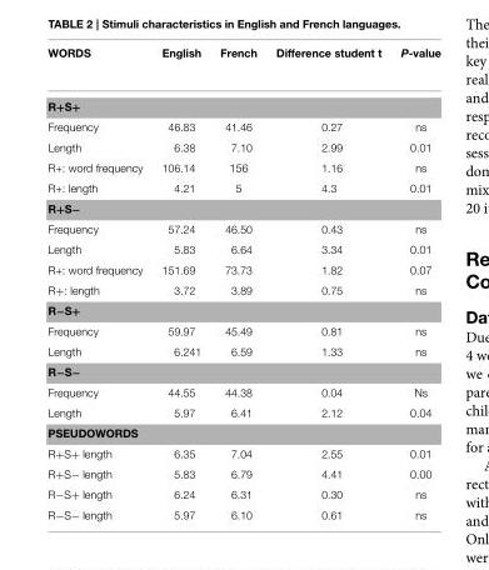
<table><thead><tr><td>WORDS</td><td>English</td><td>French</td><td>Difference student t</td><td>P-value</td></tr></thead><tbody><tr><td colspan="5">R+S+</td></tr><tr><td>Frequency</td><td>46.83</td><td>41.46</td><td>0.27</td><td>ns</td></tr><tr><td>Length</td><td>6.38</td><td>7.10</td><td>2.99</td><td>0.01</td></tr><tr><td>R+: word frequency</td><td>106.14</td><td>156</td><td>1.16</td><td>ns</td></tr><tr><td>R+: length</td><td>4.21</td><td>5</td><td>4.3</td><td>0.01</td></tr><tr><td colspan="5">R+S−</td></tr><tr><td>Frequency</td><td>57.24</td><td>46.50</td><td>0.43</td><td>ns</td></tr><tr><td>Length</td><td>5.83</td><td>6.64</td><td>3.34</td><td>0.01</td></tr><tr><td>R+: word frequency</td><td>151.69</td><td>73.73</td><td>1.82</td><td>0.07</td></tr><tr><td>R+: length</td><td>3.72</td><td>3.89</td><td>0.75</td><td>ns</td></tr><tr><td colspan="5">R−S+</td></tr><tr><td>Frequency</td><td>59.97</td><td>45.49</td><td>0.81</td><td>ns</td></tr><tr><td>Length</td><td>6.241</td><td>6.59</td><td>1.33</td><td>ns</td></tr><tr><td colspan="5">R−S−</td></tr><tr><td>Frequency</td><td>44.55</td><td>44.38</td><td>0.04</td><td>Ns</td></tr><tr><td>Length</td><td>5.97</td><td>6.41</td><td>2.12</td><td>0.04</td></tr><tr><td colspan="5">PSEUDOWORDS</td></tr><tr><td>R+S+ length</td><td>6.35</td><td>7.04</td><td>2.55</td><td>0.01</td></tr><tr><td>R+S− length</td><td>5.83</td><td>6.79</td><td>4.41</td><td>0.00</td></tr><tr><td>R−S+ length</td><td>6.24</td><td>6.31</td><td>0.30</td><td>ns</td></tr><tr><td>R−S− length</td><td>5.97</td><td>6.10</td><td>0.61</td><td>ns</td></tr></tbody></table>